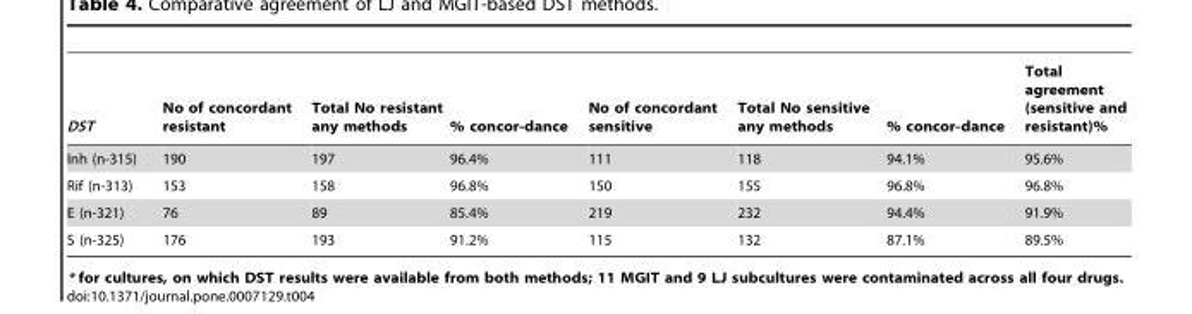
<table><thead><tr><td>DST</td><td>No of concordant resistant</td><td>Total No resistant any methods</td><td>% concor-dance</td><td>No of concordant sensitive</td><td>Total No sensitive any methods</td><td>% concor-dance</td><td>Total agreement (sensitive and resistant)%</td></tr></thead><tbody><tr><td>Inh (n-315)</td><td>190</td><td>197</td><td>96.4%</td><td>111</td><td>118</td><td>94.1%</td><td>95.6%</td></tr><tr><td>Rif (n-313)</td><td>153</td><td>158</td><td>96.8%</td><td>150</td><td>155</td><td>96.8%</td><td>96.8%</td></tr><tr><td>E (n-321)</td><td>76</td><td>89</td><td>85.4%</td><td>219</td><td>232</td><td>94.4%</td><td>91.9%</td></tr><tr><td>S (n-325)</td><td>176</td><td>193</td><td>91.2%</td><td>115</td><td>132</td><td>87.1%</td><td>89.5%</td></tr></tbody></table>